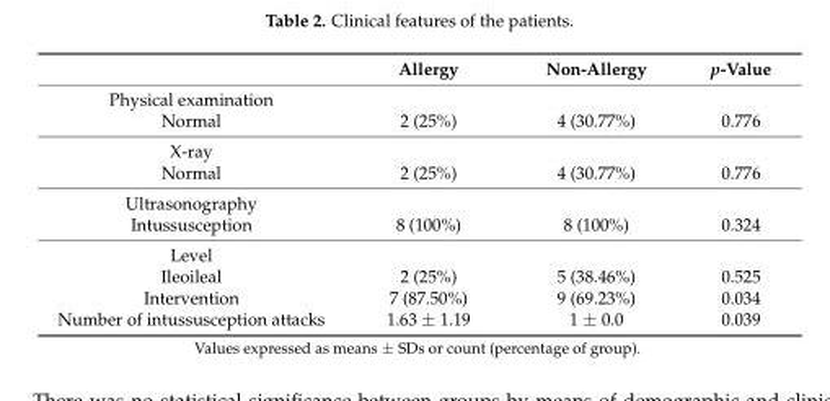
<table><thead><tr><td></td><td>Allergy</td><td>Non-Allergy</td><td>p-Value</td></tr></thead><tbody><tr><td colspan="4">Physical examination</td></tr><tr><td>Normal</td><td>2 (25%)</td><td>4 (30.77%)</td><td>0.776</td></tr><tr><td colspan="4">X-ray</td></tr><tr><td>Normal</td><td>2 (25%)</td><td>4 (30.77%)</td><td>0.776</td></tr><tr><td colspan="4">Ultrasonography</td></tr><tr><td>Intussusception</td><td>8 (100%)</td><td>8 (100%)</td><td>0.324</td></tr><tr><td colspan="4">Level</td></tr><tr><td>Ileoileal</td><td>2 (25%)</td><td>5 (38.46%)</td><td>0.525</td></tr><tr><td>Intervention</td><td>7 (87.50%)</td><td>9 (69.23%)</td><td>0.034</td></tr><tr><td>Number of intussusception attacks</td><td>1.63 ± 1.19</td><td>1 ± 0.0</td><td>0.039</td></tr></tbody></table>